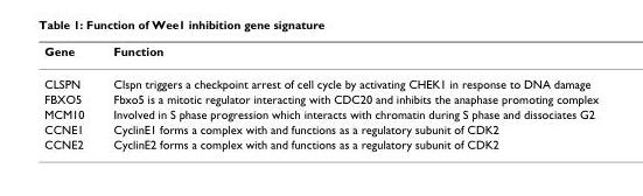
<table><thead><tr><td>Gene</td><td>Function</td></tr></thead><tbody><tr><td>CLSPN</td><td>Clspn triggers a checkpoint arrest of cell cycle by activating CHEK1 in response to DNA damage</td></tr><tr><td>FBXO5</td><td>Fbxo5 is a mitotic regulator interacting with CDC20 and inhibits the anaphase promoting complex</td></tr><tr><td>MCM10</td><td>Involved in S phase progression which interacts with chromatin during S phase and dissociates G2</td></tr><tr><td>CCNE1</td><td>CyclinE1 forms a complex with and functions as a regulatory subunit of CDK2</td></tr><tr><td>CCNE2</td><td>CyclinE2 forms a complex with and functions as a regulatory subunit of CDK2</td></tr></tbody></table>